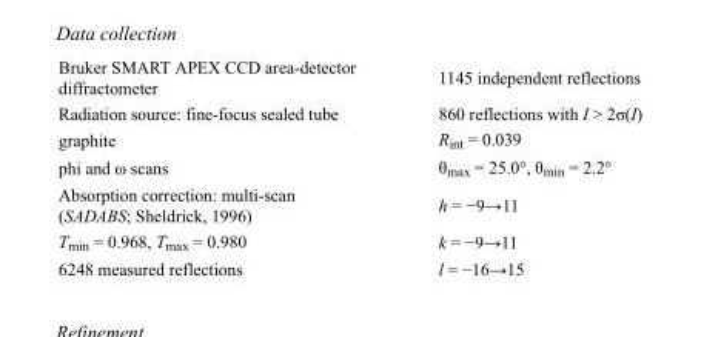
<table><tbody><tr><td>Bruker SMART APEX CCD area-detector diffractometer</td><td>1145 independent reflections</td></tr><tr><td>Radiation source: fine-focus sealed tube</td><td>860 reflections with I &gt; 2σ(I)</td></tr><tr><td>graphite</td><td>R<sub>int</sub> = 0.039</td></tr><tr><td>phi and ω scans</td><td>θ<sub>max</sub> = 25.0°, θ<sub>min</sub> = 2.2°</td></tr><tr><td>Absorption correction: multi-scan (SADABS; Sheldrick, 1996)</td><td>h = −9→11</td></tr><tr><td>T<sub>min</sub> = 0.968, T<sub>max</sub> = 0.980</td><td>k = −9→11</td></tr><tr><td>6248 measured reflections</td><td>l = −16→15</td></tr></tbody></table>